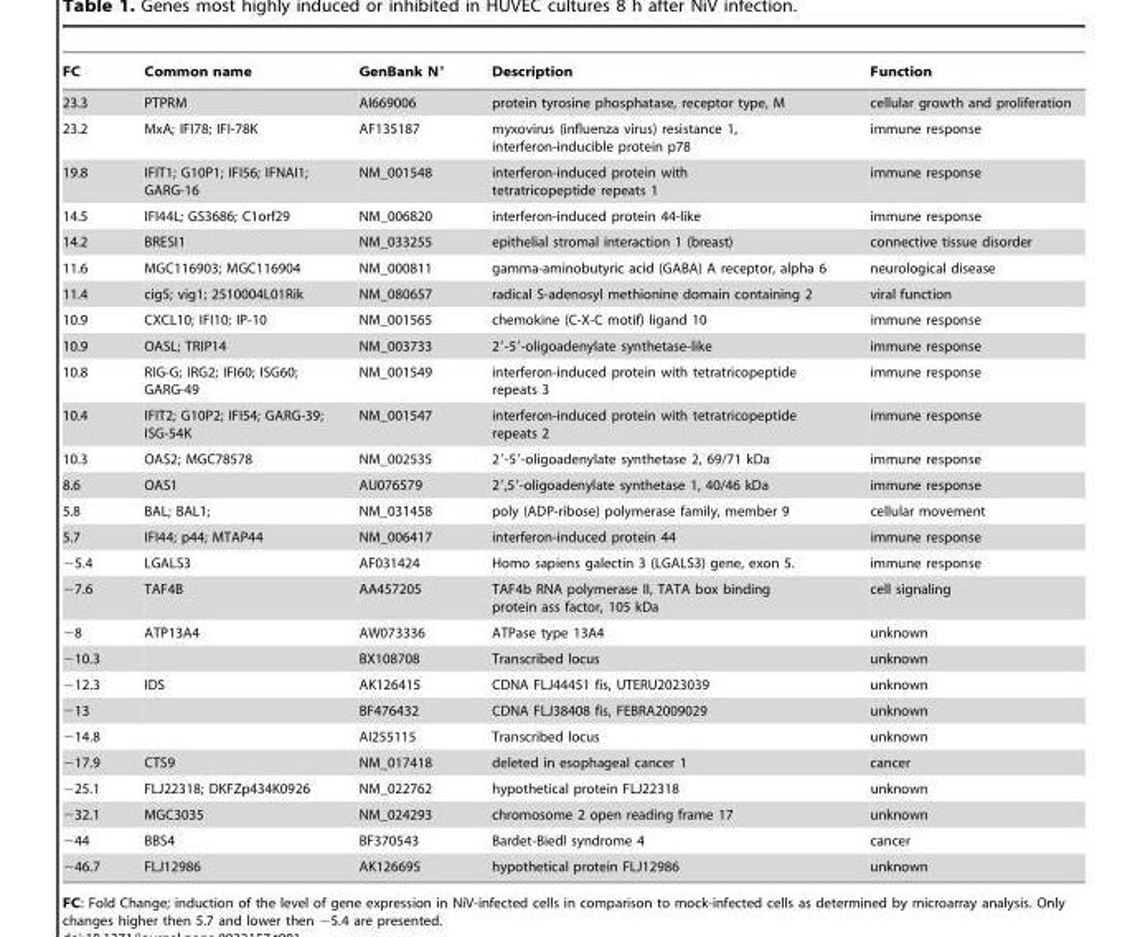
<table><thead><tr><td>FC</td><td>Common name</td><td>GenBank N°</td><td>Description</td><td>Function</td></tr></thead><tbody><tr><td>23.3</td><td>PTPRM</td><td>AI669006</td><td>protein tyrosine phosphatase, receptor type, M</td><td>cellular growth and proliferation</td></tr><tr><td>23.2</td><td>MxA; IFI78; IFI-78K</td><td>AF135187</td><td>myxovirus (influenza virus) resistance 1, interferon-inducible protein p78</td><td>immune response</td></tr><tr><td>19.8</td><td>IFIT1; G10P1; IFI56; IFNAI1; GARG-16</td><td>NM_001548</td><td>interferon-induced protein with tetratricopeptide repeats 1</td><td>immune response</td></tr><tr><td>14.5</td><td>IFI44L; GS3686; C1orf29</td><td>NM_006820</td><td>interferon-induced protein 44-like</td><td>immune response</td></tr><tr><td>14.2</td><td>BRESI1</td><td>NM_033255</td><td>epithelial stromal interaction 1 (breast)</td><td>connective tissue disorder</td></tr><tr><td>11.6</td><td>MGC116903; MGC116904</td><td>NM_000811</td><td>gamma-aminobutyric acid (GABA) A receptor, alpha 6</td><td>neurological disease</td></tr><tr><td>11.4</td><td>cig5; vig1; 2510004L01Rik</td><td>NM_080657</td><td>radical S-adenosyl methionine domain containing 2</td><td>viral function</td></tr><tr><td>10.9</td><td>CXCL10; IFI10; IP-10</td><td>NM_001565</td><td>chemokine (C-X-C motif) ligand 10</td><td>immune response</td></tr><tr><td>10.9</td><td>OASL; TRIP14</td><td>NM_003733</td><td>2′-5′-oligoadenylate synthetase-like</td><td>immune response</td></tr><tr><td>10.8</td><td>RIG-G; IRG2; IFI60; ISG60; GARG-49</td><td>NM_001549</td><td>interferon-induced protein with tetratricopeptide repeats 3</td><td>immune response</td></tr><tr><td>10.4</td><td>IFIT2; G10P2; IFI54; GARG-39; ISG-54K</td><td>NM_001547</td><td>interferon-induced protein with tetratricopeptide repeats 2</td><td>immune response</td></tr><tr><td>10.3</td><td>OAS2; MGC78578</td><td>NM_002535</td><td>2′-5′-oligoadenylate synthetase 2, 69/71 kDa</td><td>immune response</td></tr><tr><td>8.6</td><td>OAS1</td><td>AU076579</td><td>2′,5′-oligoadenylate synthetase 1, 40/46 kDa</td><td>immune response</td></tr><tr><td>5.8</td><td>BAL; BAL1;</td><td>NM_031458</td><td>poly (ADP-ribose) polymerase family, member 9</td><td>cellular movement</td></tr><tr><td>5.7</td><td>IFI44; p44; MTAP44</td><td>NM_006417</td><td>interferon-induced protein 44</td><td>immune response</td></tr><tr><td>−5.4</td><td>LGALS3</td><td>AF031424</td><td>Homo sapiens galectin 3 (LGALS3) gene, exon 5.</td><td>immune response</td></tr><tr><td>−7.6</td><td>TAF4B</td><td>AA457205</td><td>TAF4b RNA polymerase II, TATA box binding protein ass factor, 105 kDa</td><td>cell signaling</td></tr><tr><td>−8</td><td>ATP13A4</td><td>AW073336</td><td>ATPase type 13A4</td><td>unknown</td></tr><tr><td>−10.3</td><td></td><td>BX108708</td><td>Transcribed locus</td><td>unknown</td></tr><tr><td>−12.3</td><td>IDS</td><td>AK126415</td><td>CDNA FLJ44451 fis, UTERU2023039</td><td>unknown</td></tr><tr><td>−13</td><td></td><td>BF476432</td><td>CDNA FLJ38408 fis, FEBRA2009029</td><td>unknown</td></tr><tr><td>−14.8</td><td></td><td>AI255115</td><td>Transcribed locus</td><td>unknown</td></tr><tr><td>−17.9</td><td>CTS9</td><td>NM_017418</td><td>deleted in esophageal cancer 1</td><td>cancer</td></tr><tr><td>−25.1</td><td>FLJ22318; DKFZp434K0926</td><td>NM_022762</td><td>hypothetical protein FLJ22318</td><td>unknown</td></tr><tr><td>−32.1</td><td>MGC3035</td><td>NM_024293</td><td>chromosome 2 open reading frame 17</td><td>unknown</td></tr><tr><td>−44</td><td>BBS4</td><td>BF370543</td><td>Bardet-Biedl syndrome 4</td><td>cancer</td></tr><tr><td>−46.7</td><td>FLJ12986</td><td>AK126695</td><td>hypothetical protein FLJ12986</td><td>unknown</td></tr></tbody></table>